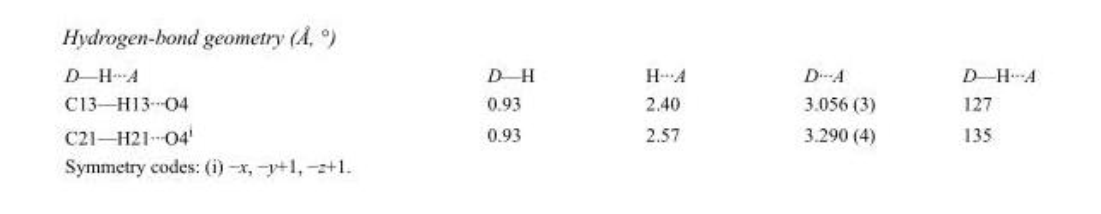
<table><tbody><tr><td>D—H···A</td><td>D—H</td><td>H···A</td><td>D···A</td><td>D—H···A</td></tr><tr><td>C13—H13···O4</td><td>0.93</td><td>2.40</td><td>3.056 (3)</td><td>127</td></tr><tr><td>C21—H21···O4<sup>i</sup></td><td>0.93</td><td>2.57</td><td>3.290 (4)</td><td>135</td></tr></tbody></table>